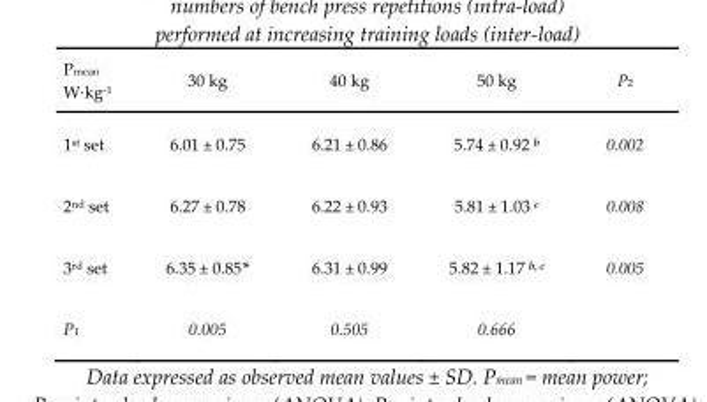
<table><thead><tr><td>P<sub>mean</sub> W·kg<sup>-1</sup></td><td>30 kg</td><td>40 kg</td><td>50 kg</td><td>P<sub>2</sub></td></tr></thead><tbody><tr><td>1<sup>st</sup> set</td><td>6.01 ± 0.75</td><td>6.21 ± 0.86</td><td>5.74 ± 0.92 <sup>b</sup></td><td>0.002</td></tr><tr><td>2<sup>nd</sup> set</td><td>6.27 ± 0.78</td><td>6.22 ± 0.93</td><td>5.81 ± 1.03 <sup>c</sup></td><td>0.008</td></tr><tr><td>3<sup>rd</sup> set</td><td>6.35 ± 0.85*</td><td>6.31 ± 0.99</td><td>5.82 ± 1.17 <sup>b, c</sup></td><td>0.005</td></tr><tr><td>P<sub>1</sub></td><td>0.005</td><td>0.505</td><td>0.666</td><td></td></tr></tbody></table>